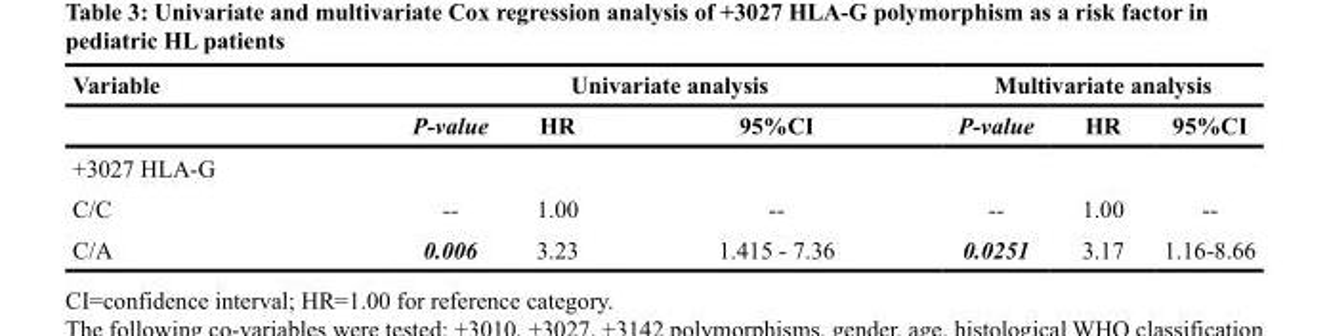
<table><thead><tr><td rowspan="2">Variable</td><td colspan="3">Univariate analysis</td><td colspan="3">Multivariate analysis</td></tr><tr><td>P-value</td><td>HR</td><td>95%CI</td><td>P-value</td><td>HR</td><td>95%CI</td></tr></thead><tbody><tr><td colspan="7">+3027 HLA-G</td></tr><tr><td>C/C</td><td>--</td><td>1.00</td><td>--</td><td>--</td><td>1.00</td><td>--</td></tr><tr><td>C/A</td><td>0.006</td><td>3.23</td><td>1.415 - 7.36</td><td>0.0251</td><td>3.17</td><td>1.16-8.66</td></tr></tbody></table>